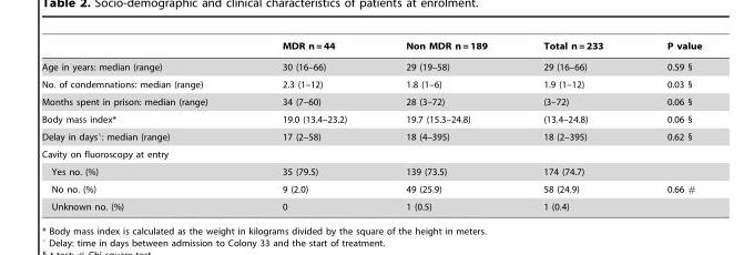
<table><thead><tr><td></td><td>MDR n = 44</td><td>Non MDR n = 189</td><td>Total n = 233</td><td>P value</td></tr></thead><tbody><tr><td>Age in years: median (range)</td><td>30 (16–66)</td><td>29 (19–58)</td><td>29 (16–66)</td><td>0.59 §</td></tr><tr><td>No. of condemnations: median (range)</td><td>2.3 (1–12)</td><td>1.8 (1–6)</td><td>1.9 (1–12)</td><td>0.03 §</td></tr><tr><td>Months spent in prison: median (range)</td><td>34 (7–60)</td><td>28 (3–72)</td><td>(3–72)</td><td>0.06 §</td></tr><tr><td>Body mass index*</td><td>19.0 (13.4–23.2)</td><td>19.7 (15.3–24.8)</td><td>(13.4–24.8)</td><td>0.06 §</td></tr><tr><td>Delay in days°: median (range)</td><td>17 (2–58)</td><td>18 (4–395)</td><td>18 (2–395)</td><td>0.62 §</td></tr><tr><td colspan="5">Cavity on fluoroscopy at entry</td></tr><tr><td>Yes no. (%)</td><td>35 (79.5)</td><td>139 (73.5)</td><td>174 (74.7)</td><td></td></tr><tr><td>No no. (%)</td><td>9 (2.0)</td><td>49 (25.9)</td><td>58 (24.9)</td><td>0.66 #</td></tr><tr><td>Unknown no. (%)</td><td>0</td><td>1 (0.5)</td><td>1 (0.4)</td><td></td></tr></tbody></table>